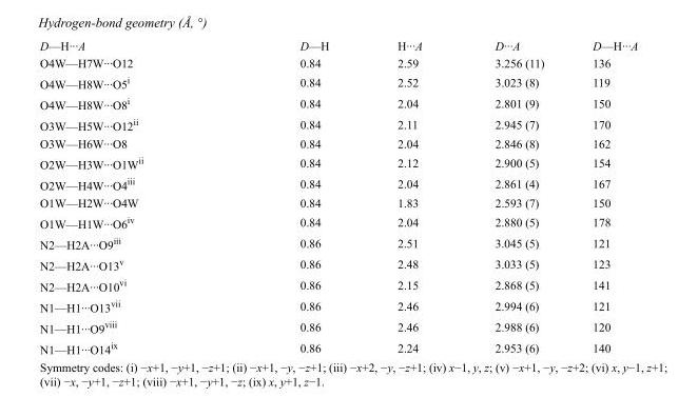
<table><tbody><tr><td>D—H···A</td><td>D—H</td><td>H···A</td><td>D···A</td><td>D—H···A</td></tr><tr><td>O4W—H7W···O12</td><td>0.84</td><td>2.59</td><td>3.256 (11)</td><td>136</td></tr><tr><td>O4W—H8W···O5<sup>i</sup></td><td>0.84</td><td>2.52</td><td>3.023 (8)</td><td>119</td></tr><tr><td>O4W—H8W···O8<sup>i</sup></td><td>0.84</td><td>2.04</td><td>2.801 (9)</td><td>150</td></tr><tr><td>O3W—H5W···O12<sup>ii</sup></td><td>0.84</td><td>2.11</td><td>2.945 (7)</td><td>170</td></tr><tr><td>O3W—H6W···O8</td><td>0.84</td><td>2.04</td><td>2.846 (8)</td><td>162</td></tr><tr><td>O2W—H3W···O1W<sup>ii</sup></td><td>0.84</td><td>2.12</td><td>2.900 (5)</td><td>154</td></tr><tr><td>O2W—H4W···O4<sup>iii</sup></td><td>0.84</td><td>2.04</td><td>2.861 (4)</td><td>167</td></tr><tr><td>O1W—H2W···O4W</td><td>0.84</td><td>1.83</td><td>2.593 (7)</td><td>150</td></tr><tr><td>O1W—H1W···O6<sup>iv</sup></td><td>0.84</td><td>2.04</td><td>2.880 (5)</td><td>178</td></tr><tr><td>N2—H2A···O9<sup>iii</sup></td><td>0.86</td><td>2.51</td><td>3.045 (5)</td><td>121</td></tr><tr><td>N2—H2A···O13<sup>v</sup></td><td>0.86</td><td>2.48</td><td>3.033 (5)</td><td>123</td></tr><tr><td>N2—H2A···O10<sup>vi</sup></td><td>0.86</td><td>2.15</td><td>2.868 (5)</td><td>141</td></tr><tr><td>N1—H1···O13<sup>vii</sup></td><td>0.86</td><td>2.46</td><td>2.994 (6)</td><td>121</td></tr><tr><td>N1—H1···O9<sup>viii</sup></td><td>0.86</td><td>2.46</td><td>2.988 (6)</td><td>120</td></tr><tr><td>N1—H1···O14<sup>ix</sup></td><td>0.86</td><td>2.24</td><td>2.953 (6)</td><td>140</td></tr></tbody></table>